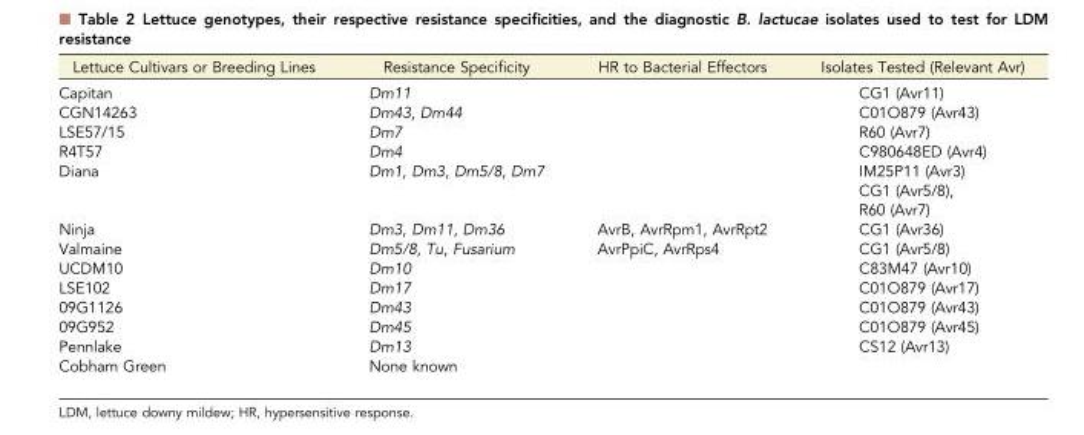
<table><thead><tr><td>Lettuce Cultivars or Breeding Lines</td><td>Resistance Specificity</td><td>HR to Bacterial Effectors</td><td>Isolates Tested (Relevant Avr)</td></tr></thead><tbody><tr><td>Capitan</td><td>Dm11</td><td></td><td>CG1 (Avr11)</td></tr><tr><td>CGN14263</td><td>Dm43, Dm44</td><td></td><td>C01O879 (Avr43)</td></tr><tr><td>LSE57/15</td><td>Dm7</td><td></td><td>R60 (Avr7)</td></tr><tr><td>R4T57</td><td>Dm4</td><td></td><td>C980648ED (Avr4)</td></tr><tr><td rowspan="3">Diana</td><td rowspan="3">Dm1, Dm3, Dm5/8, Dm7</td><td rowspan="3"></td><td>IM25P11 (Avr3)</td></tr><tr><td>CG1 (Avr5/8),</td></tr><tr><td>R60 (Avr7)</td></tr><tr><td>Ninja</td><td>Dm3, Dm11, Dm36</td><td>AvrB, AvrRpm1, AvrRpt2</td><td>CG1 (Avr36)</td></tr><tr><td>Valmaine</td><td>Dm5/8, Tu, Fusarium</td><td>AvrPpiC, AvrRps4</td><td>CG1 (Avr5/8)</td></tr><tr><td>UCDM10</td><td>Dm10</td><td></td><td>C83M47 (Avr10)</td></tr><tr><td>LSE102</td><td>Dm17</td><td></td><td>C01O879 (Avr17)</td></tr><tr><td>09G1126</td><td>Dm43</td><td></td><td>C01O879 (Avr43)</td></tr><tr><td>09G952</td><td>Dm45</td><td></td><td>C01O879 (Avr45)</td></tr><tr><td>Pennlake</td><td>Dm13</td><td></td><td>CS12 (Avr13)</td></tr><tr><td>Cobham Green</td><td>None known</td><td></td><td></td></tr></tbody></table>